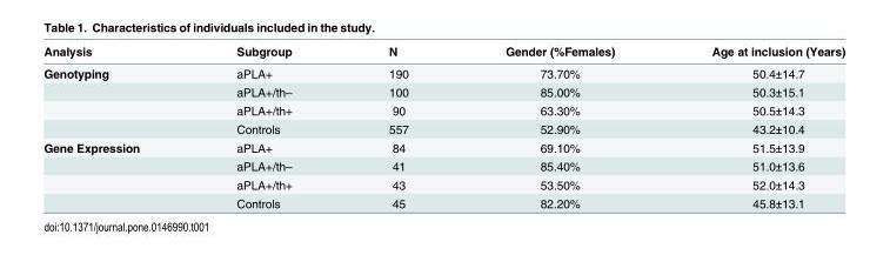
<table><thead><tr><td>Analysis</td><td>Subgroup</td><td>N</td><td>Gender (%Females)</td><td>Age at inclusion (Years)</td></tr></thead><tbody><tr><td rowspan="4">Genotyping</td><td>aPLA+</td><td>190</td><td>73.70%</td><td>50.4±14.7</td></tr><tr><td>aPLA+/th–</td><td>100</td><td>85.00%</td><td>50.3±15.1</td></tr><tr><td>aPLA+/th+</td><td>90</td><td>63.30%</td><td>50.5±14.3</td></tr><tr><td>Controls</td><td>557</td><td>52.90%</td><td>43.2±10.4</td></tr><tr><td rowspan="4">Gene Expression</td><td>aPLA+</td><td>84</td><td>69.10%</td><td>51.5±13.9</td></tr><tr><td>aPLA+/th–</td><td>41</td><td>85.40%</td><td>51.0±13.6</td></tr><tr><td>aPLA+/th+</td><td>43</td><td>53.50%</td><td>52.0±14.3</td></tr><tr><td>Controls</td><td>45</td><td>82.20%</td><td>45.8±13.1</td></tr></tbody></table>